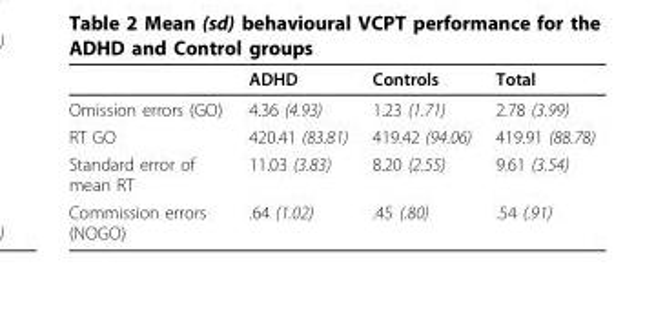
<table><thead><tr><td></td><td>ADHD</td><td>Controls</td><td>Total</td></tr></thead><tbody><tr><td>Omission errors (GO)</td><td>4.36 (4.93)</td><td>1.23 (1.71)</td><td>2.78 (3.99)</td></tr><tr><td>RT GO</td><td>420.41 (83.81)</td><td>419.42 (94.06)</td><td>419.91 (88.78)</td></tr><tr><td>Standard error of mean RT</td><td>11.03 (3.83)</td><td>8.20 (2.55)</td><td>9.61 (3.54)</td></tr><tr><td>Commission errors (NOGO)</td><td>.64 (1.02)</td><td>.45 (.80)</td><td>.54 (.91)</td></tr></tbody></table>